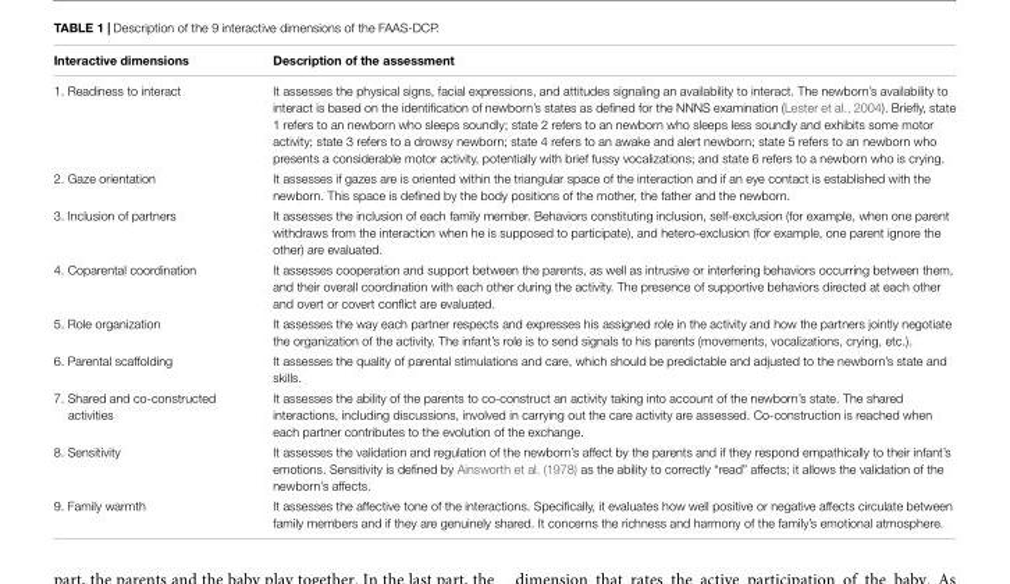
<table><thead><tr><td>Interactive dimensions</td><td>Description of the assessment</td></tr></thead><tbody><tr><td>1. Readiness to interact</td><td>It assesses the physical signs, facial expressions, and attitudes signaling an availability to interact. The newborn’s availability to interact is based on the identification of newborn’s states as defined for the NNNS examination (Lester et al., 2004). Briefly, state 1 refers to an newborn who sleeps soundly; state 2 refers to an newborn who sleeps less soundly and exhibits some motor activity; state 3 refers to a drowsy newborn; state 4 refers to an awake and alert newborn; state 5 refers to an newborn who presents a considerable motor activity, potentially with brief fussy vocalizations; and state 6 refers to a newborn who is crying.</td></tr><tr><td>2. Gaze orientation</td><td>It assesses if gazes are is oriented within the triangular space of the interaction and if an eye contact is established with the newborn. This space is defined by the body positions of the mother, the father and the newborn.</td></tr><tr><td>3. Inclusion of partners</td><td>It assesses the inclusion of each family member. Behaviors constituting inclusion, self-exclusion (for example, when one parent withdraws from the interaction when he is supposed to participate), and hetero-exclusion (for example, one parent ignore the other) are evaluated.</td></tr><tr><td>4. Coparental coordination</td><td>It assesses cooperation and support between the parents, as well as intrusive or interfering behaviors occurring between them, and their overall coordination with each other during the activity. The presence of supportive behaviors directed at each other and overt or covert conflict are evaluated.</td></tr><tr><td>5. Role organization</td><td>It assesses the way each partner respects and expresses his assigned role in the activity and how the partners jointly negotiate the organization of the activity. The infant’s role is to send signals to his parents (movements, vocalizations, crying, etc.).</td></tr><tr><td>6. Parental scaffolding</td><td>It assesses the quality of parental stimulations and care, which should be predictable and adjusted to the newborn’s state and skills.</td></tr><tr><td>7. Shared and co-constructed activities</td><td>It assesses the ability of the parents to co-construct an activity taking into account of the newborn’s state. The shared interactions, including discussions, involved in carrying out the care activity are assessed. Co-construction is reached when each partner contributes to the evolution of the exchange.</td></tr><tr><td>8. Sensitivity</td><td>It assesses the validation and regulation of the newborn’s affect by the parents and if they respond empathically to their infant’s emotions. Sensitivity is defined by Ainsworth et al. (1978) as the ability to correctly “read” affects; it allows the validation of the newborn’s affects.</td></tr><tr><td>9. Family warmth</td><td>It assesses the affective tone of the interactions. Specifically, it evaluates how well positive or negative affects circulate between family members and if they are genuinely shared. It concerns the richness and harmony of the family’s emotional atmosphere.</td></tr></tbody></table>